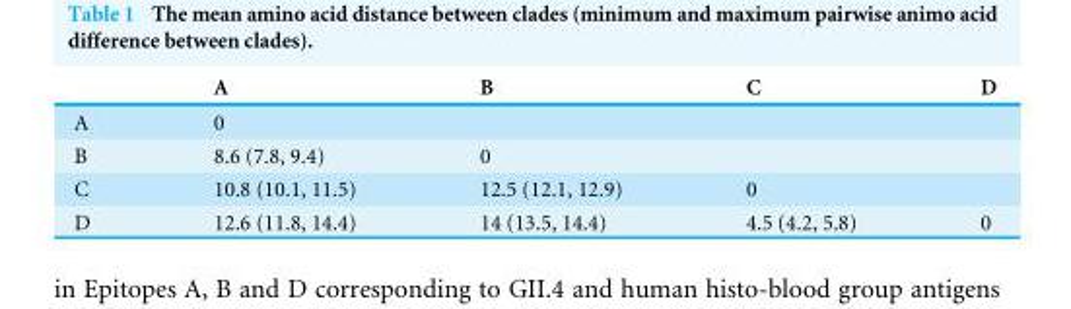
<table><thead><tr><td></td><td>A</td><td>B</td><td>C</td><td>D</td></tr></thead><tbody><tr><td>A</td><td>0</td><td></td><td></td><td></td></tr><tr><td>B</td><td>8.6 (7.8, 9.4)</td><td>0</td><td></td><td></td></tr><tr><td>C</td><td>10.8 (10.1, 11.5)</td><td>12.5 (12.1, 12.9)</td><td>0</td><td></td></tr><tr><td>D</td><td>12.6 (11.8, 14.4)</td><td>14 (13.5, 14.4)</td><td>4.5 (4.2, 5.8)</td><td>0</td></tr></tbody></table>